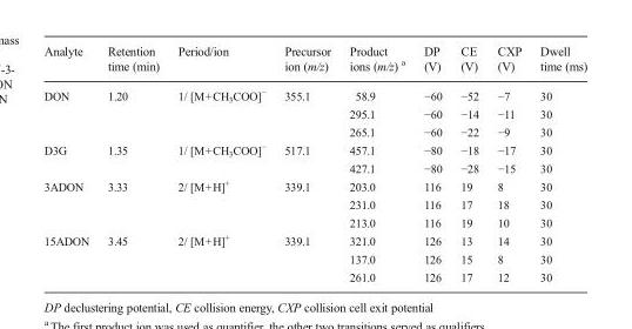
<table><thead><tr><td>Analyte</td><td>Retention time (min)</td><td>Period/ion</td><td>Precursor ion (m/z)</td><td>Product ions (m/z) <sup>a</sup></td><td>DP (V)</td><td>CE (V)</td><td>CXP (V)</td><td>Dwell time (ms)</td></tr></thead><tbody><tr><td rowspan="3">DON</td><td rowspan="3">1.20</td><td rowspan="3">1/ [M+CH<sub>3</sub>COO]<sup>−</sup></td><td rowspan="3">355.1</td><td>58.9</td><td>−60</td><td>−52</td><td>−7</td><td>30</td></tr><tr><td>295.1</td><td>−60</td><td>−14</td><td>−11</td><td>30</td></tr><tr><td>265.1</td><td>−60</td><td>−22</td><td>−9</td><td>30</td></tr><tr><td rowspan="2">D3G</td><td rowspan="2">1.35</td><td rowspan="2">1/ [M+CH<sub>3</sub>COO]<sup>−</sup></td><td rowspan="2">517.1</td><td>457.1</td><td>−80</td><td>−18</td><td>−17</td><td>30</td></tr><tr><td>427.1</td><td>−80</td><td>−28</td><td>−15</td><td>30</td></tr><tr><td rowspan="3">3ADON</td><td rowspan="3">3.33</td><td rowspan="3">2/ [M+H]<sup>+</sup></td><td rowspan="3">339.1</td><td>203.0</td><td>116</td><td>19</td><td>8</td><td>30</td></tr><tr><td>231.0</td><td>116</td><td>17</td><td>18</td><td>30</td></tr><tr><td>213.0</td><td>116</td><td>19</td><td>10</td><td>30</td></tr><tr><td rowspan="3">15ADON</td><td rowspan="3">3.45</td><td rowspan="3">2/ [M+H]<sup>+</sup></td><td rowspan="3">339.1</td><td>321.0</td><td>126</td><td>13</td><td>14</td><td>30</td></tr><tr><td>137.0</td><td>126</td><td>15</td><td>8</td><td>30</td></tr><tr><td>261.0</td><td>126</td><td>17</td><td>12</td><td>30</td></tr></tbody></table>